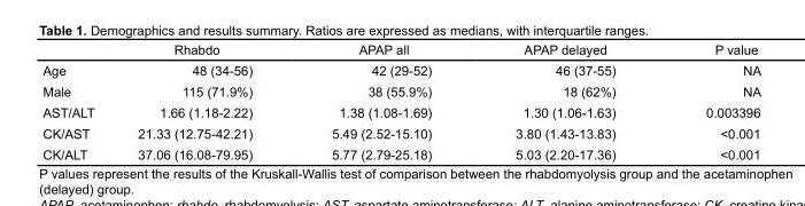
<table><thead><tr><td></td><td>Rhabdo</td><td>APAP all</td><td>APAP delayed</td><td>P value</td></tr></thead><tbody><tr><td>Age</td><td>48 (34-56)</td><td>42 (29-52)</td><td>46 (37-55)</td><td>NA</td></tr><tr><td>Male</td><td>115 (71.9%)</td><td>38 (55.9%)</td><td>18 (62%)</td><td>NA</td></tr><tr><td>AST/ALT</td><td>1.66 (1.18-2.22)</td><td>1.38 (1.08-1.69)</td><td>1.30 (1.06-1.63)</td><td>0.003396</td></tr><tr><td>CK/AST</td><td>21.33 (12.75-42.21)</td><td>5.49 (2.52-15.10)</td><td>3.80 (1.43-13.83)</td><td>&lt;0.001</td></tr><tr><td>CK/ALT</td><td>37.06 (16.08-79.95)</td><td>5.77 (2.79-25.18)</td><td>5.03 (2.20-17.36)</td><td>&lt;0.001</td></tr></tbody></table>